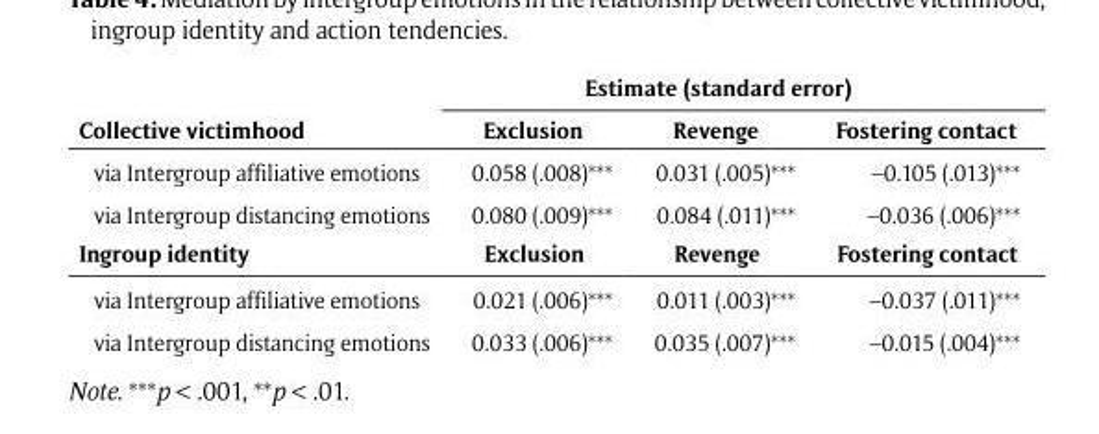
<table><thead><tr><td rowspan="2">Collective victimhood</td><td colspan="3">Estimate (standard error)</td></tr><tr><td>Exclusion</td><td>Revenge</td><td>Fostering contact</td></tr></thead><tbody><tr><td>via Intergroup affiliative emotions</td><td>0.058 (.008)***</td><td>0.031 (.005)***</td><td>–0.105 (.013)***</td></tr><tr><td>via Intergroup distancing emotions</td><td>0.080 (.009)***</td><td>0.084 (.011)***</td><td>–0.036 (.006)***</td></tr><tr><td>Ingroup identity</td><td>Exclusion</td><td>Revenge</td><td>Fostering contact</td></tr><tr><td>via Intergroup affiliative emotions</td><td>0.021 (.006)***</td><td>0.011 (.003)***</td><td>–0.037 (.011)***</td></tr><tr><td>via Intergroup distancing emotions</td><td>0.033 (.006)***</td><td>0.035 (.007)***</td><td>–0.015 (.004)***</td></tr></tbody></table>